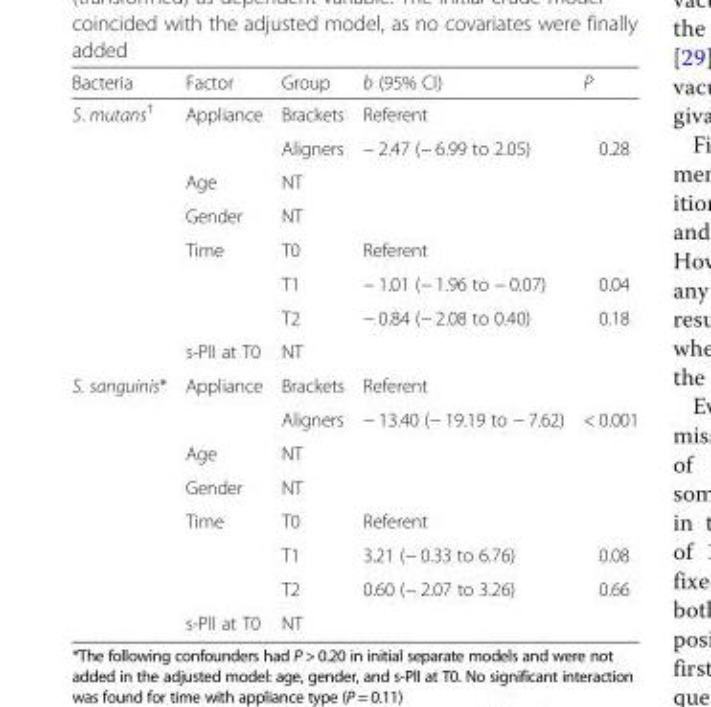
<table><thead><tr><td>Bacteria</td><td>Factor</td><td>Group</td><td>b (95% CI)</td><td>P</td></tr></thead><tbody><tr><td rowspan="8">S. mutans<sup>†</sup></td><td>Appliance</td><td>Brackets</td><td>Referent</td><td></td></tr><tr><td></td><td>Aligners</td><td>− 2.47 (− 6.99 to 2.05)</td><td>0.28</td></tr><tr><td>Age</td><td>NT</td><td></td><td></td></tr><tr><td>Gender</td><td>NT</td><td></td><td></td></tr><tr><td>Time</td><td>T0</td><td>Referent</td><td></td></tr><tr><td></td><td>T1</td><td>− 1.01 (− 1.96 to − 0.07)</td><td>0.04</td></tr><tr><td></td><td>T2</td><td>− 0.84 (− 2.08 to 0.40)</td><td>0.18</td></tr><tr><td>s-PlI at T0</td><td>NT</td><td></td><td></td></tr><tr><td rowspan="8">S. sanguinis*</td><td>Appliance</td><td>Brackets</td><td>Referent</td><td></td></tr><tr><td></td><td>Aligners</td><td>− 13.40 (− 19.19 to − 7.62)</td><td>&lt; 0.001</td></tr><tr><td>Age</td><td>NT</td><td></td><td></td></tr><tr><td>Gender</td><td>NT</td><td></td><td></td></tr><tr><td>Time</td><td>T0</td><td>Referent</td><td></td></tr><tr><td></td><td>T1</td><td>3.21 (− 0.33 to 6.76)</td><td>0.08</td></tr><tr><td></td><td>T2</td><td>0.60 (− 2.07 to 3.26)</td><td>0.66</td></tr><tr><td>s-PlI at T0</td><td>NT</td><td></td><td></td></tr></tbody></table>